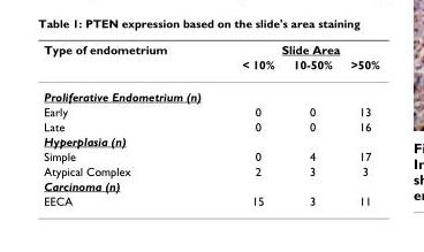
<table><thead><tr><td rowspan="2">Type of endometrium</td><td colspan="3">Slide Area</td></tr><tr><td>&lt; 10%</td><td>10-50%</td><td>&gt;50%</td></tr></thead><tbody><tr><td colspan="4">Proliferative Endometrium (n)</td></tr><tr><td>Early</td><td>0</td><td>0</td><td>13</td></tr><tr><td>Late</td><td>0</td><td>0</td><td>16</td></tr><tr><td colspan="4">Hyperplasia (n)</td></tr><tr><td>Simple</td><td>0</td><td>4</td><td>17</td></tr><tr><td>Atypical Complex</td><td>2</td><td>3</td><td>3</td></tr><tr><td colspan="4">Carcinoma (n)</td></tr><tr><td>EECA</td><td>15</td><td>3</td><td>11</td></tr></tbody></table>